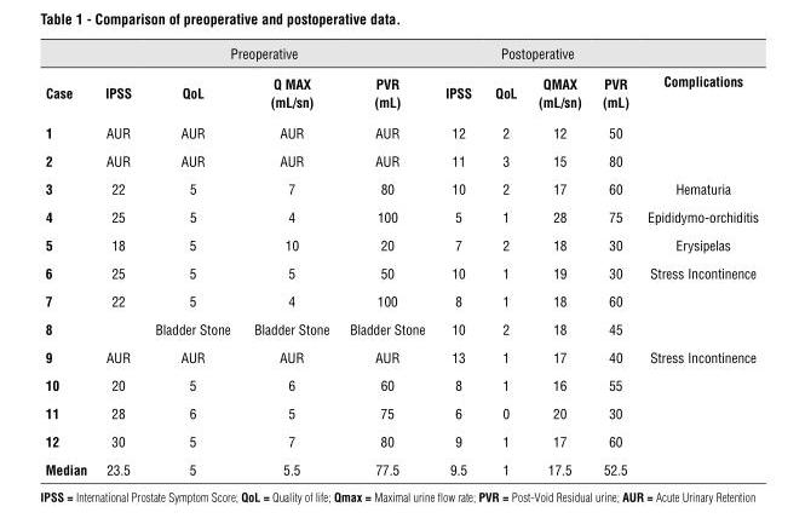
<table><thead><tr><td colspan="5">Preoperative</td><td colspan="4">Postoperative</td><td rowspan="2">complications</td></tr><tr><td>case</td><td>IpSS</td><td>QoL</td><td>Q MAX (mL/sn)</td><td>pvR (mL)</td><td>IpSS</td><td>QoL</td><td>QMAX (mL/sn)</td><td>pvR (mL)</td></tr></thead><tbody><tr><td>1</td><td>AUR</td><td>AUR</td><td>AUR</td><td>AUR</td><td>12</td><td>2</td><td>12</td><td>50</td><td></td></tr><tr><td>2</td><td>AUR</td><td>AUR</td><td>AUR</td><td>AUR</td><td>11</td><td>3</td><td>15</td><td>80</td><td></td></tr><tr><td>3</td><td>22</td><td>5</td><td>7</td><td>80</td><td>10</td><td>2</td><td>17</td><td>60</td><td>Hematuria</td></tr><tr><td>4</td><td>25</td><td>5</td><td>4</td><td>100</td><td>5</td><td>1</td><td>28</td><td>75</td><td>Epididymo-orchiditis</td></tr><tr><td>5</td><td>18</td><td>5</td><td>10</td><td>20</td><td>7</td><td>2</td><td>18</td><td>30</td><td>Erysipelas</td></tr><tr><td>6</td><td>25</td><td>5</td><td>5</td><td>50</td><td>10</td><td>1</td><td>19</td><td>30</td><td>Stress Incontinence</td></tr><tr><td>7</td><td>22</td><td>5</td><td>4</td><td>100</td><td>8</td><td>1</td><td>18</td><td>60</td><td></td></tr><tr><td>8</td><td></td><td>Bladder Stone</td><td>Bladder Stone</td><td>Bladder Stone</td><td>10</td><td>2</td><td>18</td><td>45</td><td></td></tr><tr><td>9</td><td>AUR</td><td>AUR</td><td>AUR</td><td>AUR</td><td>13</td><td>1</td><td>17</td><td>40</td><td>Stress Incontinence</td></tr><tr><td>10</td><td>20</td><td>5</td><td>6</td><td>60</td><td>8</td><td>1</td><td>16</td><td>55</td><td></td></tr><tr><td>11</td><td>28</td><td>6</td><td>5</td><td>75</td><td>6</td><td>0</td><td>20</td><td>30</td><td></td></tr><tr><td>12</td><td>30</td><td>5</td><td>7</td><td>80</td><td>9</td><td>1</td><td>17</td><td>60</td><td></td></tr><tr><td>Median</td><td>23.5</td><td>5</td><td>5.5</td><td>77.5</td><td>9.5</td><td>1</td><td>17.5</td><td>52.5</td><td></td></tr></tbody></table>